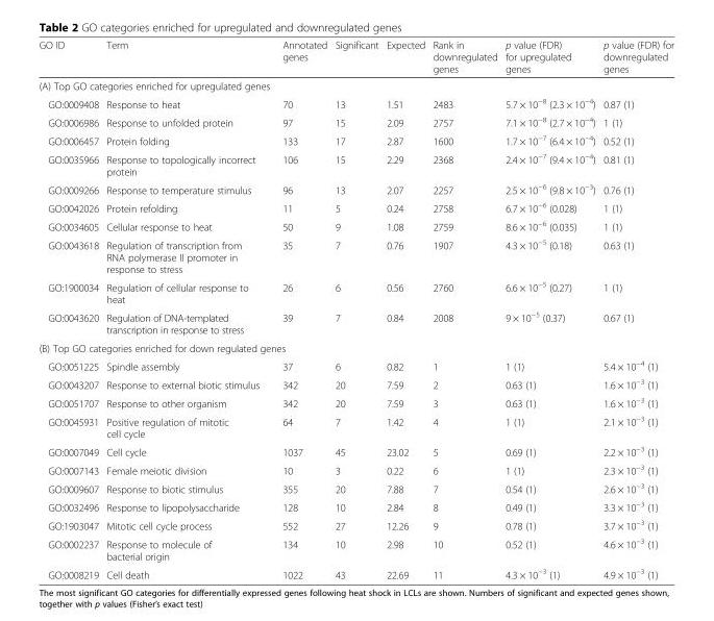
<table><thead><tr><td>GO ID</td><td>Term</td><td>Annotated genes</td><td>Significant</td><td>Expected</td><td>Rank in downregulated genes</td><td>p value (FDR) for upregulated genes</td><td>p value (FDR) for downregulated genes</td></tr></thead><tbody><tr><td colspan="8">(A) Top GO categories enriched for upregulated genes</td></tr><tr><td>GO:0009408</td><td>Response to heat</td><td>70</td><td>13</td><td>1.51</td><td>2483</td><td>5.7 × 10<sup>−8</sup> (2.3 × 10<sup>−4</sup>)</td><td>0.87 (1)</td></tr><tr><td>GO:0006986</td><td>Response to unfolded protein</td><td>97</td><td>15</td><td>2.09</td><td>2757</td><td>7.1 × 10<sup>−8</sup> (2.7 × 10<sup>−4</sup>)</td><td>1 (1)</td></tr><tr><td>GO:0006457</td><td>Protein folding</td><td>133</td><td>17</td><td>2.87</td><td>1600</td><td>1.7 × 10<sup>−7</sup> (6.4 × 10<sup>−4</sup>)</td><td>0.52 (1)</td></tr><tr><td>GO:0035966</td><td>Response to topologically incorrect protein</td><td>106</td><td>15</td><td>2.29</td><td>2368</td><td>2.4 × 10<sup>−7</sup> (9.4 × 10<sup>−4</sup>)</td><td>0.81 (1)</td></tr><tr><td>GO:0009266</td><td>Response to temperature stimulus</td><td>96</td><td>13</td><td>2.07</td><td>2257</td><td>2.5 × 10<sup>−6</sup> (9.8 × 10<sup>−3</sup>)</td><td>0.76 (1)</td></tr><tr><td>GO:0042026</td><td>Protein refolding</td><td>11</td><td>5</td><td>0.24</td><td>2758</td><td>6.7 × 10<sup>−6</sup> (0.028)</td><td>1 (1)</td></tr><tr><td>GO:0034605</td><td>Cellular response to heat</td><td>50</td><td>9</td><td>1.08</td><td>2759</td><td>8.6 × 10<sup>−6</sup> (0.035)</td><td>1 (1)</td></tr><tr><td>GO:0043618</td><td>Regulation of transcription from RNA polymerase II promoter in response to stress</td><td>35</td><td>7</td><td>0.76</td><td>1907</td><td>4.3 × 10<sup>−5</sup> (0.18)</td><td>0.63 (1)</td></tr><tr><td>GO:1900034</td><td>Regulation of cellular response to heat</td><td>26</td><td>6</td><td>0.56</td><td>2760</td><td>6.6 × 10<sup>−5</sup> (0.27)</td><td>1 (1)</td></tr><tr><td>GO:0043620</td><td>Regulation of DNA-templated transcription in response to stress</td><td>39</td><td>7</td><td>0.84</td><td>2008</td><td>9 × 10<sup>−5</sup> (0.37)</td><td>0.67 (1)</td></tr><tr><td colspan="8">(B) Top GO categories enriched for down regulated genes</td></tr><tr><td>GO:0051225</td><td>Spindle assembly</td><td>37</td><td>6</td><td>0.82</td><td>1</td><td>1 (1)</td><td>5.4 × 10<sup>−4</sup> (1)</td></tr><tr><td>GO:0043207</td><td>Response to external biotic stimulus</td><td>342</td><td>20</td><td>7.59</td><td>2</td><td>0.63 (1)</td><td>1.6 × 10<sup>−3</sup> (1)</td></tr><tr><td>GO:0051707</td><td>Response to other organism</td><td>342</td><td>20</td><td>7.59</td><td>3</td><td>0.63 (1)</td><td>1.6 × 10<sup>−3</sup> (1)</td></tr><tr><td>GO:0045931</td><td>Positive regulation of mitotic cell cycle</td><td>64</td><td>7</td><td>1.42</td><td>4</td><td>1 (1)</td><td>2.1 × 10<sup>−3</sup> (1)</td></tr><tr><td>GO:0007049</td><td>Cell cycle</td><td>1037</td><td>45</td><td>23.02</td><td>5</td><td>0.69 (1)</td><td>2.2 × 10<sup>−3</sup> (1)</td></tr><tr><td>GO:0007143</td><td>Female meiotic division</td><td>10</td><td>3</td><td>0.22</td><td>6</td><td>1 (1)</td><td>2.3 × 10<sup>−3</sup> (1)</td></tr><tr><td>GO:0009607</td><td>Response to biotic stimulus</td><td>355</td><td>20</td><td>7.88</td><td>7</td><td>0.54 (1)</td><td>2.6 × 10<sup>−3</sup> (1)</td></tr><tr><td>GO:0032496</td><td>Response to lipopolysaccharide</td><td>128</td><td>10</td><td>2.84</td><td>8</td><td>0.49 (1)</td><td>3.3 × 10<sup>−3</sup> (1)</td></tr><tr><td>GO:1903047</td><td>Mitotic cell cycle process</td><td>552</td><td>27</td><td>12.26</td><td>9</td><td>0.78 (1)</td><td>3.7 × 10<sup>−3</sup> (1)</td></tr><tr><td>GO:0002237</td><td>Response to molecule of bacterial origin</td><td>134</td><td>10</td><td>2.98</td><td>10</td><td>0.52 (1)</td><td>4.6 × 10<sup>−3</sup> (1)</td></tr><tr><td>GO:0008219</td><td>Cell death</td><td>1022</td><td>43</td><td>22.69</td><td>11</td><td>4.3 × 10<sup>−3</sup> (1)</td><td>4.9 × 10<sup>−3</sup> (1)</td></tr></tbody></table>